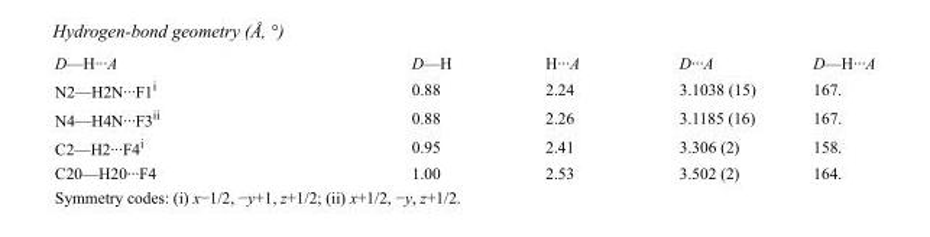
<table><tbody><tr><td>D—H···A</td><td>D—H</td><td>H···A</td><td>D···A</td><td>D—H···A</td></tr><tr><td>N2—H2N···F1<sup>i</sup></td><td>0.88</td><td>2.24</td><td>3.1038 (15)</td><td>167.</td></tr><tr><td>N4—H4N···F3<sup>ii</sup></td><td>0.88</td><td>2.26</td><td>3.1185 (16)</td><td>167.</td></tr><tr><td>C2—H2···F4<sup>i</sup></td><td>0.95</td><td>2.41</td><td>3.306 (2)</td><td>158.</td></tr><tr><td>C20—H20···F4</td><td>1.00</td><td>2.53</td><td>3.502 (2)</td><td>164.</td></tr></tbody></table>